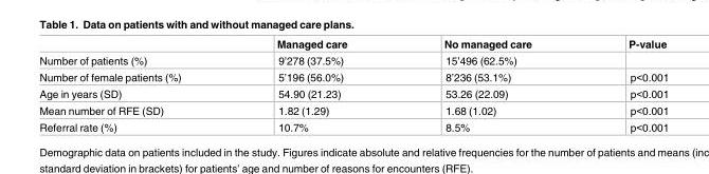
<table><thead><tr><td></td><td>Managed care</td><td>No managed care</td><td>P-value</td></tr></thead><tbody><tr><td>Number of patients (%)</td><td>9’278 (37.5%)</td><td>15’496 (62.5%)</td><td></td></tr><tr><td>Number of female patients (%)</td><td>5’196 (56.0%)</td><td>8’236 (53.1%)</td><td>p&lt;0.001</td></tr><tr><td>Age in years (SD)</td><td>54.90 (21.23)</td><td>53.26 (22.09)</td><td>p&lt;0.001</td></tr><tr><td>Mean number of RFE (SD)</td><td>1.82 (1.29)</td><td>1.68 (1.02)</td><td>p&lt;0.001</td></tr><tr><td>Referral rate (%)</td><td>10.7%</td><td>8.5%</td><td>p&lt;0.001</td></tr></tbody></table>